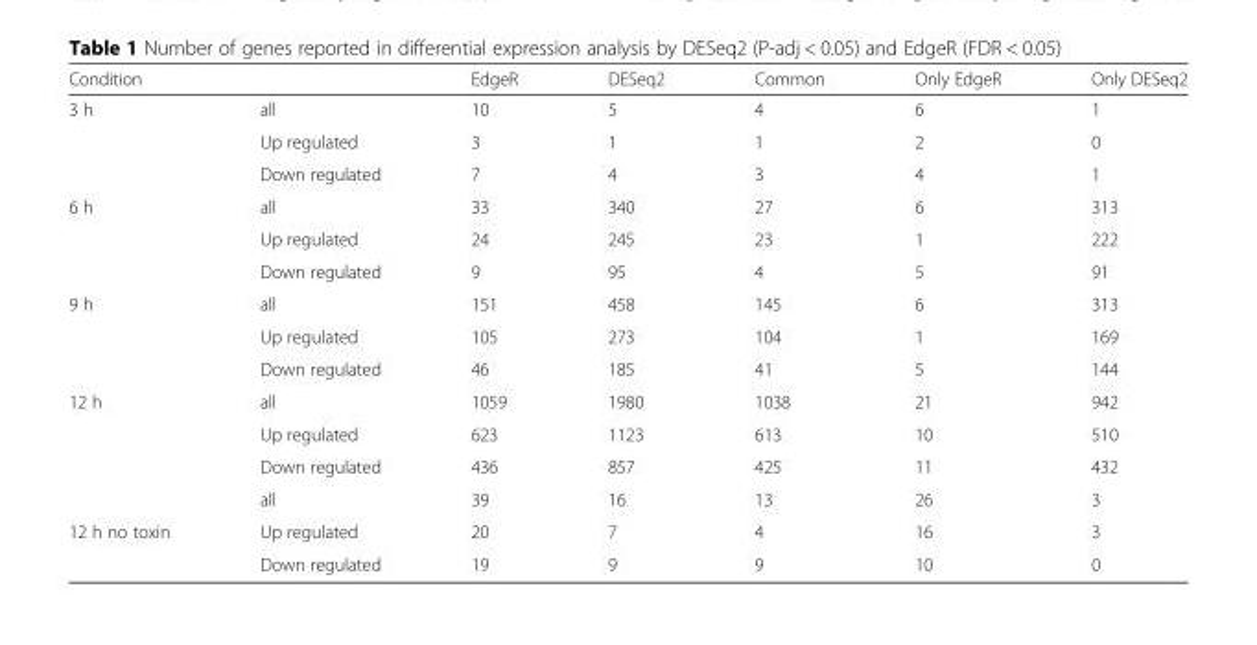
<table><thead><tr><td>Condition</td><td></td><td>EdgeR</td><td>DESeq2</td><td>Common</td><td>Only EdgeR</td><td>Only DESeq2</td></tr></thead><tbody><tr><td rowspan="3">3 h</td><td>all</td><td>10</td><td>5</td><td>4</td><td>6</td><td>1</td></tr><tr><td>Up regulated</td><td>3</td><td>1</td><td>1</td><td>2</td><td>0</td></tr><tr><td>Down regulated</td><td>7</td><td>4</td><td>3</td><td>4</td><td>1</td></tr><tr><td rowspan="3">6 h</td><td>all</td><td>33</td><td>340</td><td>27</td><td>6</td><td>313</td></tr><tr><td>Up regulated</td><td>24</td><td>245</td><td>23</td><td>1</td><td>222</td></tr><tr><td>Down regulated</td><td>9</td><td>95</td><td>4</td><td>5</td><td>91</td></tr><tr><td rowspan="3">9 h</td><td>all</td><td>151</td><td>458</td><td>145</td><td>6</td><td>313</td></tr><tr><td>Up regulated</td><td>105</td><td>273</td><td>104</td><td>1</td><td>169</td></tr><tr><td>Down regulated</td><td>46</td><td>185</td><td>41</td><td>5</td><td>144</td></tr><tr><td rowspan="4">12 h</td><td>all</td><td>1059</td><td>1980</td><td>1038</td><td>21</td><td>942</td></tr><tr><td>Up regulated</td><td>623</td><td>1123</td><td>613</td><td>10</td><td>510</td></tr><tr><td>Down regulated</td><td>436</td><td>857</td><td>425</td><td>11</td><td>432</td></tr><tr><td>all</td><td>39</td><td>16</td><td>13</td><td>26</td><td>3</td></tr><tr><td rowspan="2">12 h no toxin</td><td>Up regulated</td><td>20</td><td>7</td><td>4</td><td>16</td><td>3</td></tr><tr><td>Down regulated</td><td>19</td><td>9</td><td>9</td><td>10</td><td>0</td></tr></tbody></table>